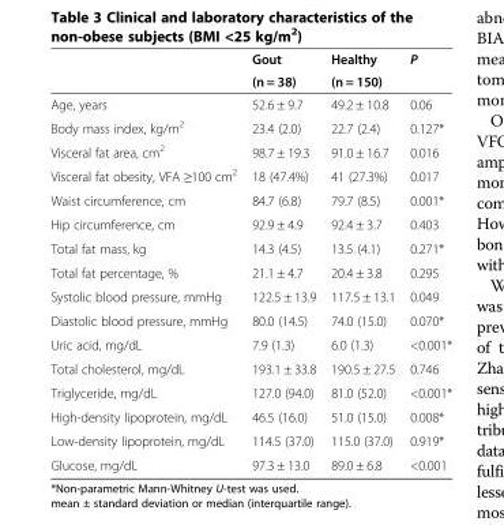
<table><thead><tr><td rowspan="2"></td><td rowspan="2">Gout (n = 38)</td><td rowspan="2">Healthy (n = 150)</td><td rowspan="2">P</td></tr><tr></tr></thead><tbody><tr><td>Age, years</td><td>52.6 ± 9.7</td><td>49.2 ± 10.8</td><td>0.06</td></tr><tr><td>Body mass index, kg/m<sup>2</sup></td><td>23.4 (2.0)</td><td>22.7 (2.4)</td><td>0.127*</td></tr><tr><td>Visceral fat area, cm<sup>2</sup></td><td>98.7 ± 19.3</td><td>91.0 ± 16.7</td><td>0.016</td></tr><tr><td>Visceral fat obesity, VFA ≥100 cm<sup>2</sup></td><td>18 (47.4%)</td><td>41 (27.3%)</td><td>0.017</td></tr><tr><td>Waist circumference, cm</td><td>84.7 (6.8)</td><td>79.7 (8.5)</td><td>0.001*</td></tr><tr><td>Hip circumference, cm</td><td>92.9 ± 4.9</td><td>92.4 ± 3.7</td><td>0.403</td></tr><tr><td>Total fat mass, kg</td><td>14.3 (4.5)</td><td>13.5 (4.1)</td><td>0.271*</td></tr><tr><td>Total fat percentage, %</td><td>21.1 ± 4.7</td><td>20.4 ± 3.8</td><td>0.295</td></tr><tr><td>Systolic blood pressure, mmHg</td><td>122.5 ± 13.9</td><td>117.5 ± 13.1</td><td>0.049</td></tr><tr><td>Diastolic blood pressure, mmHg</td><td>80.0 (14.5)</td><td>74.0 (15.0)</td><td>0.070*</td></tr><tr><td>Uric acid, mg/dL</td><td>7.9 (1.3)</td><td>6.0 (1.3)</td><td>&lt;0.001*</td></tr><tr><td>Total cholesterol, mg/dL</td><td>193.1 ± 33.8</td><td>190.5 ± 27.5</td><td>0.746</td></tr><tr><td>Triglyceride, mg/dL</td><td>127.0 (94.0)</td><td>81.0 (52.0)</td><td>&lt;0.001*</td></tr><tr><td>High-density lipoprotein, mg/dL</td><td>46.5 (16.0)</td><td>51.0 (15.0)</td><td>0.008*</td></tr><tr><td>Low-density lipoprotein, mg/dL</td><td>114.5 (37.0)</td><td>115.0 (37.0)</td><td>0.919*</td></tr><tr><td>Glucose, mg/dL</td><td>97.3 ± 13.0</td><td>89.0 ± 6.8</td><td>&lt;0.001</td></tr></tbody></table>